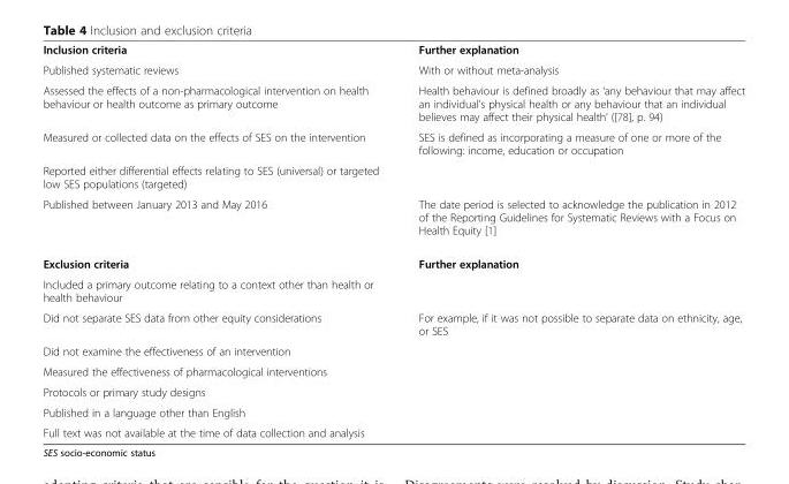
<table><tbody><tr><td>Inclusion criteria</td><td>Further explanation</td></tr><tr><td>Published systematic reviews</td><td>With or without meta-analysis</td></tr><tr><td>Assessed the effects of a non-pharmacological intervention on health behaviour or health outcome as primary outcome</td><td>Health behaviour is defined broadly as ‘any behaviour that may affect an individual’s physical health or any behaviour that an individual believes may affect their physical health’ ([78], p. 94)</td></tr><tr><td>Measured or collected data on the effects of SES on the intervention</td><td>SES is defined as incorporating a measure of one or more of the following: income, education or occupation</td></tr><tr><td colspan="2">Reported either differential effects relating to SES (universal) or targeted low SES populations (targeted)</td></tr><tr><td>Published between January 2013 and May 2016</td><td>The date period is selected to acknowledge the publication in 2012 of the Reporting Guidelines for Systematic Reviews with a Focus on Health Equity [1]</td></tr><tr><td>Exclusion criteria</td><td>Further explanation</td></tr><tr><td colspan="2">Included a primary outcome relating to a context other than health or health behaviour</td></tr><tr><td>Did not separate SES data from other equity considerations</td><td>For example, if it was not possible to separate data on ethnicity, age, or SES</td></tr><tr><td colspan="2">Did not examine the effectiveness of an intervention</td></tr><tr><td colspan="2">Measured the effectiveness of pharmacological interventions</td></tr><tr><td colspan="2">Protocols or primary study designs</td></tr><tr><td colspan="2">Published in a language other than English</td></tr><tr><td>Full text was not available at the time of data collection and analysis</td><td></td></tr></tbody></table>